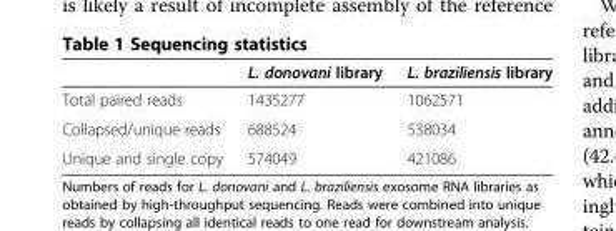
<table><thead><tr><td></td><td>L. donovani library</td><td>L. braziliensis library</td></tr></thead><tbody><tr><td>Total paired reads</td><td>1435277</td><td>1062571</td></tr><tr><td>Collapsed/unique reads</td><td>688524</td><td>538034</td></tr><tr><td>Unique and single copy</td><td>574049</td><td>421086</td></tr></tbody></table>